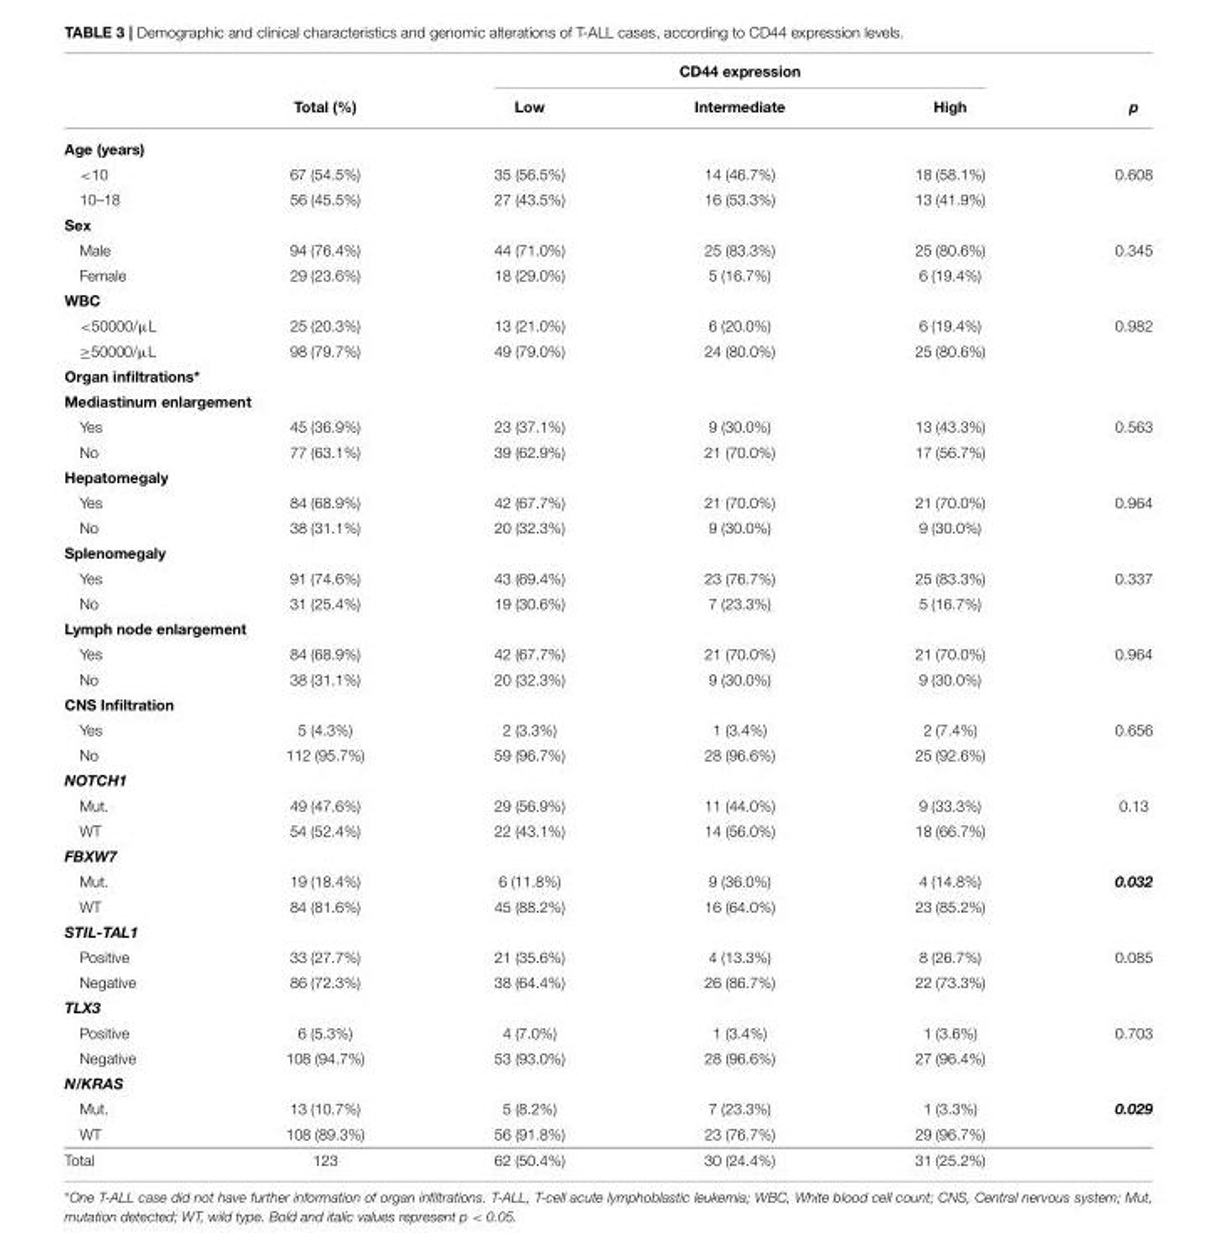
<table><thead><tr><td rowspan="2"></td><td rowspan="2">Total (%)</td><td colspan="3">CD44 expression</td><td rowspan="2">p</td></tr><tr><td>Low</td><td>Intermediate</td><td>High</td></tr></thead><tbody><tr><td colspan="6">Age (years)</td></tr><tr><td>&lt;10</td><td>67 (54.5%)</td><td>35 (56.5%)</td><td>14 (46.7%)</td><td>18 (58.1%)</td><td>0.608</td></tr><tr><td>10–18</td><td>56 (45.5%)</td><td>27 (43.5%)</td><td>16 (53.3%)</td><td>13 (41.9%)</td><td></td></tr><tr><td colspan="6">Sex</td></tr><tr><td>Male</td><td>94 (76.4%)</td><td>44 (71.0%)</td><td>25 (83.3%)</td><td>25 (80.6%)</td><td>0.345</td></tr><tr><td>Female</td><td>29 (23.6%)</td><td>18 (29.0%)</td><td>5 (16.7%)</td><td>6 (19.4%)</td><td></td></tr><tr><td colspan="6">WBC</td></tr><tr><td>&lt;50000/µL</td><td>25 (20.3%)</td><td>13 (21.0%)</td><td>6 (20.0%)</td><td>6 (19.4%)</td><td>0.982</td></tr><tr><td>≥50000/µL</td><td>98 (79.7%)</td><td>49 (79.0%)</td><td>24 (80.0%)</td><td>25 (80.6%)</td><td></td></tr><tr><td colspan="6">Organ infiltrations*</td></tr><tr><td colspan="6">Mediastinum enlargement</td></tr><tr><td>Yes</td><td>45 (36.9%)</td><td>23 (37.1%)</td><td>9 (30.0%)</td><td>13 (43.3%)</td><td>0.563</td></tr><tr><td>No</td><td>77 (63.1%)</td><td>39 (62.9%)</td><td>21 (70.0%)</td><td>17 (56.7%)</td><td></td></tr><tr><td colspan="6">Hepatomegaly</td></tr><tr><td>Yes</td><td>84 (68.9%)</td><td>42 (67.7%)</td><td>21 (70.0%)</td><td>21 (70.0%)</td><td>0.964</td></tr><tr><td>No</td><td>38 (31.1%)</td><td>20 (32.3%)</td><td>9 (30.0%)</td><td>9 (30.0%)</td><td></td></tr><tr><td colspan="6">Splenomegaly</td></tr><tr><td>Yes</td><td>91 (74.6%)</td><td>43 (69.4%)</td><td>23 (76.7%)</td><td>25 (83.3%)</td><td>0.337</td></tr><tr><td>No</td><td>31 (25.4%)</td><td>19 (30.6%)</td><td>7 (23.3%)</td><td>5 (16.7%)</td><td></td></tr><tr><td colspan="6">Lymph node enlargement</td></tr><tr><td>Yes</td><td>84 (68.9%)</td><td>42 (67.7%)</td><td>21 (70.0%)</td><td>21 (70.0%)</td><td>0.964</td></tr><tr><td>No</td><td>38 (31.1%)</td><td>20 (32.3%)</td><td>9 (30.0%)</td><td>9 (30.0%)</td><td></td></tr><tr><td colspan="6">CNS Infiltration</td></tr><tr><td>Yes</td><td>5 (4.3%)</td><td>2 (3.3%)</td><td>1 (3.4%)</td><td>2 (7.4%)</td><td>0.656</td></tr><tr><td>No</td><td>112 (95.7%)</td><td>59 (96.7%)</td><td>28 (96.6%)</td><td>25 (92.6%)</td><td></td></tr><tr><td colspan="6">NOTCH1</td></tr><tr><td>Mut.</td><td>49 (47.6%)</td><td>29 (56.9%)</td><td>11 (44.0%)</td><td>9 (33.3%)</td><td>0.13</td></tr><tr><td>WT</td><td>54 (52.4%)</td><td>22 (43.1%)</td><td>14 (56.0%)</td><td>18 (66.7%)</td><td></td></tr><tr><td colspan="6">FBXW7</td></tr><tr><td>Mut.</td><td>19 (18.4%)</td><td>6 (11.8%)</td><td>9 (36.0%)</td><td>4 (14.8%)</td><td>0.032</td></tr><tr><td>WT</td><td>84 (81.6%)</td><td>45 (88.2%)</td><td>16 (64.0%)</td><td>23 (85.2%)</td><td></td></tr><tr><td colspan="6">STIL-TAL1</td></tr><tr><td>Positive</td><td>33 (27.7%)</td><td>21 (35.6%)</td><td>4 (13.3%)</td><td>8 (26.7%)</td><td>0.085</td></tr><tr><td>Negative</td><td>86 (72.3%)</td><td>38 (64.4%)</td><td>26 (86.7%)</td><td>22 (73.3%)</td><td></td></tr><tr><td colspan="6">TLX3</td></tr><tr><td>Positive</td><td>6 (5.3%)</td><td>4 (7.0%)</td><td>1 (3.4%)</td><td>1 (3.6%)</td><td>0.703</td></tr><tr><td>Negative</td><td>108 (94.7%)</td><td>53 (93.0%)</td><td>28 (96.6%)</td><td>27 (96.4%)</td><td></td></tr><tr><td colspan="6">N/KRAS</td></tr><tr><td>Mut.</td><td>13 (10.7%)</td><td>5 (8.2%)</td><td>7 (23.3%)</td><td>1 (3.3%)</td><td>0.029</td></tr><tr><td>WT</td><td>108 (89.3%)</td><td>56 (91.8%)</td><td>23 (76.7%)</td><td>29 (96.7%)</td><td></td></tr><tr><td>Total</td><td>123</td><td>62 (50.4%)</td><td>30 (24.4%)</td><td>31 (25.2%)</td><td></td></tr></tbody></table>